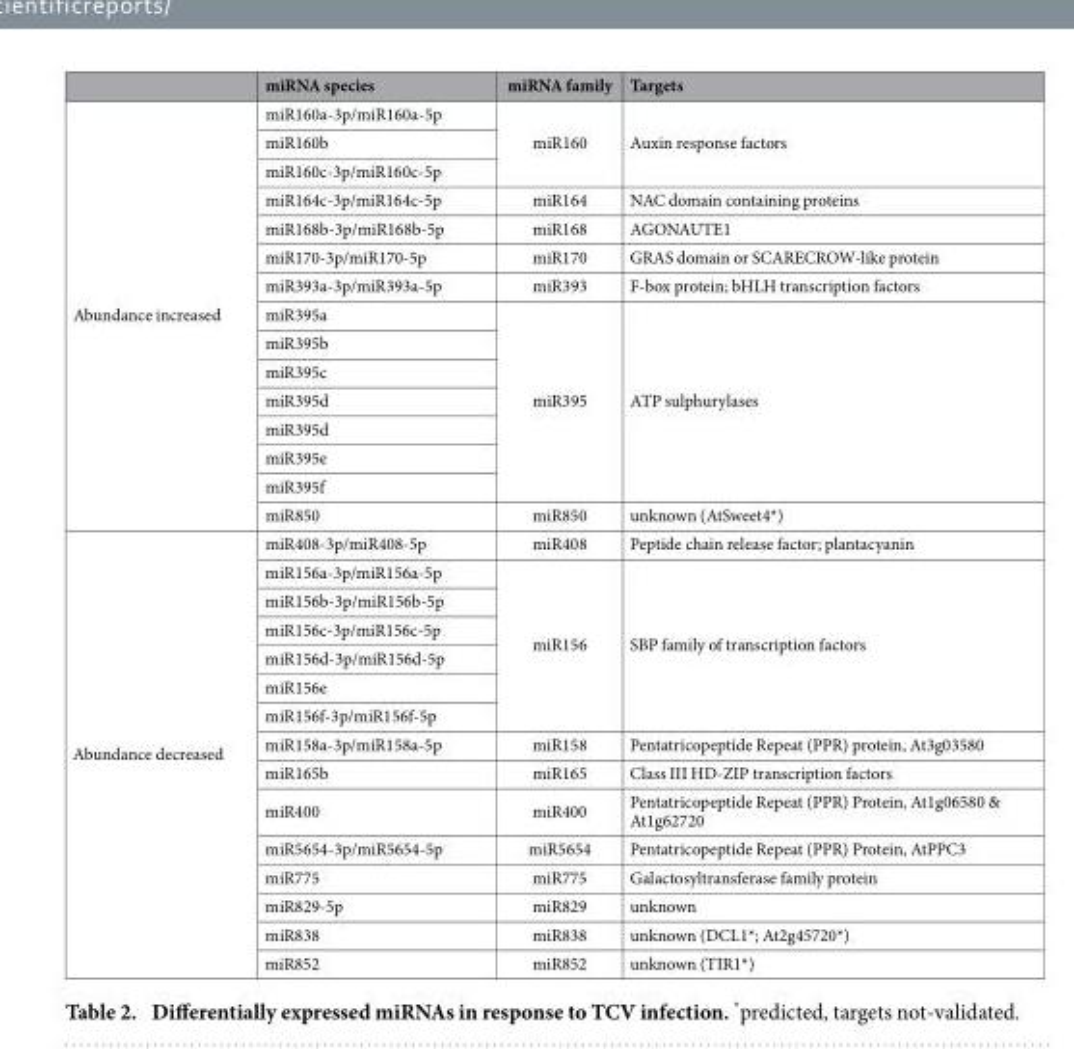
<table><thead><tr><td></td><td>miRNA species</td><td>miRNA family</td><td>Targets</td></tr></thead><tbody><tr><td rowspan="15">Abundance increased</td><td>miR160a-3p/miR160a-5p</td><td rowspan="3">miR160</td><td rowspan="3">Auxin response factors</td></tr><tr><td>miR160b</td></tr><tr><td>miR160c-3p/miR160c-5p</td></tr><tr><td>miR164c-3p/miR164c-5p</td><td>miR164</td><td>NAC domain containing proteins</td></tr><tr><td>miR168b-3p/miR168b-5p</td><td>miR168</td><td>AGONAUTE1</td></tr><tr><td>miR170-3p/miR170-5p</td><td>miR170</td><td>GRAS domain or SCARECROW-like protein</td></tr><tr><td>miR393a-3p/miR393a-5p</td><td>miR393</td><td>F-box protein; bHLH transcription factors</td></tr><tr><td>miR395a</td><td rowspan="7">miR395</td><td rowspan="7">ATP sulphurylases</td></tr><tr><td>miR395b</td></tr><tr><td>miR395c</td></tr><tr><td>miR395d</td></tr><tr><td>miR395d</td></tr><tr><td>miR395e</td></tr><tr><td>miR395f</td></tr><tr><td>miR850</td><td>miR850</td><td>unknown (AtSweet4*)</td></tr><tr><td rowspan="15">Abundance decreased</td><td>miR408-3p/miR408-5p</td><td>miR408</td><td>Peptide chain release factor; plantacyanin</td></tr><tr><td>miR156a-3p/miR156a-5p</td><td rowspan="6">miR156</td><td rowspan="6">SBP family of transcription factors</td></tr><tr><td>miR156b-3p/miR156b-5p</td></tr><tr><td>miR156c-3p/miR156c-5p</td></tr><tr><td>miR156d-3p/miR156d-5p</td></tr><tr><td>miR156e</td></tr><tr><td>miR156f-3p/miR156f-5p</td></tr><tr><td>miR158a-3p/miR158a-5p</td><td>miR158</td><td>Pentatricopeptide Repeat (PPR) protein, At3g03580</td></tr><tr><td>miR165b</td><td>miR165</td><td>Class III HD-ZIP transcription factors</td></tr><tr><td>miR400</td><td>miR400</td><td>Pentatricopeptide Repeat (PPR) Protein, At1g06580 &amp; At1g62720</td></tr><tr><td>miR5654-3p/miR5654-5p</td><td>miR5654</td><td>Pentatricopeptide Repeat (PPR) Protein, AtPPC3</td></tr><tr><td>miR775</td><td>miR775</td><td>Galactosyltransferase family protein</td></tr><tr><td>miR829-5p</td><td>miR829</td><td>unknown</td></tr><tr><td>miR838</td><td>miR838</td><td>unknown (DCL1*; At2g45720*)</td></tr><tr><td>miR852</td><td>miR852</td><td>unknown (TIR1*)</td></tr></tbody></table>